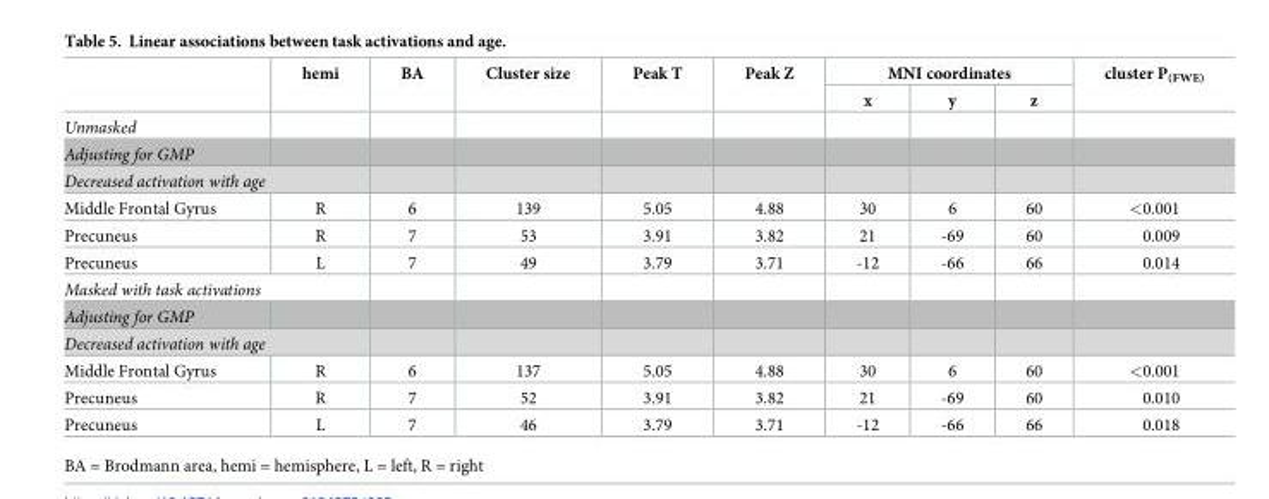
<table><thead><tr><td rowspan="2"></td><td rowspan="2">hemi</td><td rowspan="2">BA</td><td rowspan="2">Cluster size</td><td rowspan="2">Peak T</td><td rowspan="2">Peak Z</td><td colspan="3">MNI coordinates</td><td rowspan="2">cluster P<sub>(FWE)</sub></td></tr><tr><td>x</td><td>y</td><td>z</td></tr></thead><tbody><tr><td colspan="10">Unmasked</td></tr><tr><td colspan="10">Adjusting for GMP</td></tr><tr><td colspan="10">Decreased activation with age</td></tr><tr><td>Middle Frontal Gyrus</td><td>R</td><td>6</td><td>139</td><td>5.05</td><td>4.88</td><td>30</td><td>6</td><td>60</td><td>&lt;0.001</td></tr><tr><td>Precuneus</td><td>R</td><td>7</td><td>53</td><td>3.91</td><td>3.82</td><td>21</td><td>-69</td><td>60</td><td>0.009</td></tr><tr><td>Precuneus</td><td>L</td><td>7</td><td>49</td><td>3.79</td><td>3.71</td><td>-12</td><td>-66</td><td>66</td><td>0.014</td></tr><tr><td colspan="10">Masked with task activations</td></tr><tr><td colspan="10">Adjusting for GMP</td></tr><tr><td colspan="10">Decreased activation with age</td></tr><tr><td>Middle Frontal Gyrus</td><td>R</td><td>6</td><td>137</td><td>5.05</td><td>4.88</td><td>30</td><td>6</td><td>60</td><td>&lt;0.001</td></tr><tr><td>Precuneus</td><td>R</td><td>7</td><td>52</td><td>3.91</td><td>3.82</td><td>21</td><td>-69</td><td>60</td><td>0.010</td></tr><tr><td>Precuneus</td><td>L</td><td>7</td><td>46</td><td>3.79</td><td>3.71</td><td>-12</td><td>-66</td><td>66</td><td>0.018</td></tr></tbody></table>